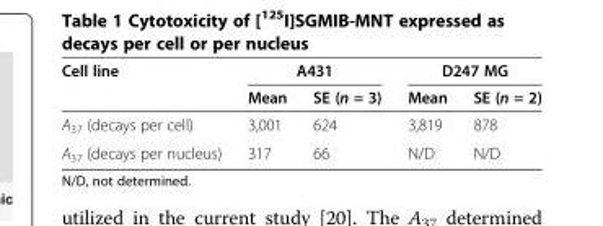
<table><thead><tr><td rowspan="2">Cell line</td><td colspan="2">A431</td><td colspan="2">D247 MG</td></tr><tr><td>Mean</td><td>SE (n = 3)</td><td>Mean</td><td>SE (n = 2)</td></tr></thead><tbody><tr><td>A<sub>37</sub> (decays per cell)</td><td>3,001</td><td>624</td><td>3,819</td><td>878</td></tr><tr><td>A<sub>37</sub> (decays per nucleus)</td><td>317</td><td>66</td><td>N/D</td><td>N/D</td></tr></tbody></table>